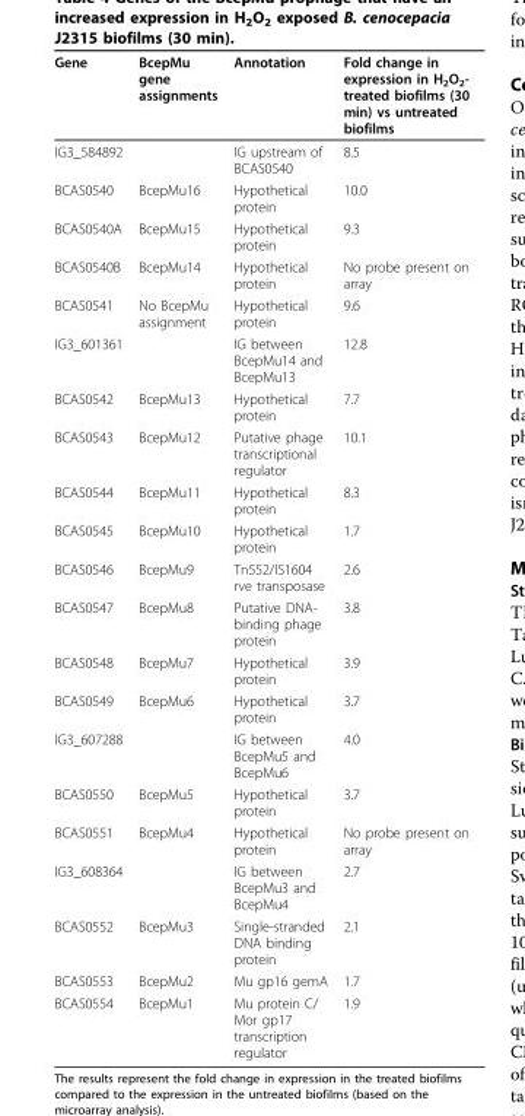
<table><thead><tr><td>Gene</td><td>BcepMu gene assignments</td><td>Annotation</td><td>Fold change in expression in H<sub>2</sub>O<sub>2</sub>- treated biofilms (30 min) vs untreated biofilms</td></tr></thead><tbody><tr><td>IG3_584892</td><td></td><td>IG upstream of BCAS0540</td><td>8.5</td></tr><tr><td>BCAS0540</td><td>BcepMu16</td><td>Hypothetical protein</td><td>10.0</td></tr><tr><td>BCAS0540A</td><td>BcepMu15</td><td>Hypothetical protein</td><td>9.3</td></tr><tr><td>BCAS0540B</td><td>BcepMu14</td><td>Hypothetical protein</td><td>No probe present on array</td></tr><tr><td>BCAS0541</td><td>No BcepMu assignment</td><td>Hypothetical protein</td><td>9.6</td></tr><tr><td>IG3_601361</td><td></td><td>IG between BcepMu14 and BcepMu13</td><td>12.8</td></tr><tr><td>BCAS0542</td><td>BcepMu13</td><td>Hypothetical protein</td><td>7.7</td></tr><tr><td>BCAS0543</td><td>BcepMu12</td><td>Putative phage transcriptional regulator</td><td>10.1</td></tr><tr><td>BCAS0544</td><td>BcepMu11</td><td>Hypothetical protein</td><td>8.3</td></tr><tr><td>BCAS0545</td><td>BcepMu10</td><td>Hypothetical protein</td><td>1.7</td></tr><tr><td>BCAS0546</td><td>BcepMu9</td><td>Tn552/IS1604 rve transposase</td><td>2.6</td></tr><tr><td>BCAS0547</td><td>BcepMu8</td><td>Putative DNA- binding phage protein</td><td>3.8</td></tr><tr><td>BCAS0548</td><td>BcepMu7</td><td>Hypothetical protein</td><td>3.9</td></tr><tr><td>BCAS0549</td><td>BcepMu6</td><td>Hypothetical protein</td><td>3.7</td></tr><tr><td>IG3_607288</td><td></td><td>IG between BcepMu5 and BcepMu6</td><td>4.0</td></tr><tr><td>BCAS0550</td><td>BcepMu5</td><td>Hypothetical protein</td><td>3.7</td></tr><tr><td>BCAS0551</td><td>BcepMu4</td><td>Hypothetical protein</td><td>No probe present on array</td></tr><tr><td>IG3_608364</td><td></td><td>IG between BcepMu3 and BcepMu4</td><td>2.7</td></tr><tr><td>BCAS0552</td><td>BcepMu3</td><td>Single-stranded DNA binding protein</td><td>2.1</td></tr><tr><td>BCAS0553</td><td>BcepMu2</td><td>Mu gp16 gemA</td><td>1.7</td></tr><tr><td>BCAS0554</td><td>BcepMu1</td><td>Mu protein C/ Mor gp17 transcription regulator</td><td>1.9</td></tr></tbody></table>